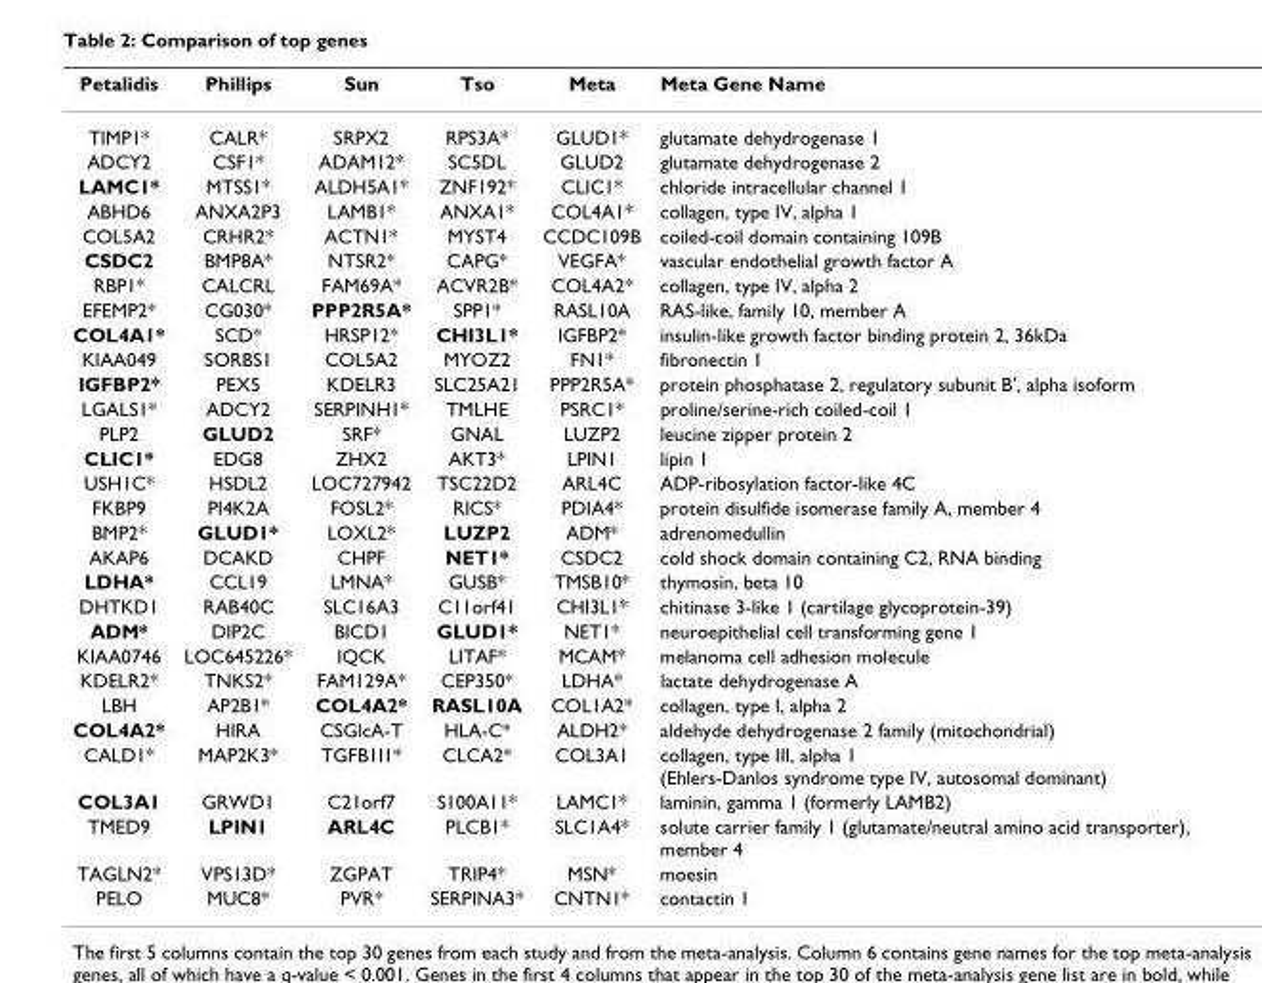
<table><thead><tr><td>Petalidis</td><td>Phillips</td><td>Sun</td><td>Tso</td><td>Meta</td><td>Meta Gene Name</td></tr></thead><tbody><tr><td>TIMP1*</td><td>CALR*</td><td>SRPX2</td><td>RPS3A*</td><td>GLUD1*</td><td>glutamate dehydrogenase 1</td></tr><tr><td>ADCY2</td><td>CSF1*</td><td>ADAM12*</td><td>SC5DL</td><td>GLUD2</td><td>glutamate dehydrogenase 2</td></tr><tr><td>LAMC1*</td><td>MTSS1*</td><td>ALDH5A1*</td><td>ZNF192*</td><td>CLIC1*</td><td>chloride intracellular channel 1</td></tr><tr><td>ABHD6</td><td>ANXA2P3</td><td>LAMB1*</td><td>ANXA1*</td><td>COL4A1*</td><td>collagen, type IV, alpha 1</td></tr><tr><td>COL5A2</td><td>CRHR2*</td><td>ACTN1*</td><td>MYST4</td><td>CCDC109B</td><td>coiled-coil domain containing 109B</td></tr><tr><td>CSDC2</td><td>BMP8A*</td><td>NTSR2*</td><td>CAPG*</td><td>VEGFA*</td><td>vascular endothelial growth factor A</td></tr><tr><td>RBP1*</td><td>CALCRL</td><td>FAM69A*</td><td>ACVR2B*</td><td>COL4A2*</td><td>collagen, type IV, alpha 2</td></tr><tr><td>EFEMP2*</td><td>CG030*</td><td>PPP2R5A*</td><td>SPP1*</td><td>RASL10A</td><td>RAS-like, family 10, member A</td></tr><tr><td>COL4A1*</td><td>SCD*</td><td>HRSP12*</td><td>CHI3L1*</td><td>IGFBP2*</td><td>insulin-like growth factor binding protein 2, 36kDa</td></tr><tr><td>KIAA049</td><td>SORBS1</td><td>COL5A2</td><td>MYOZ2</td><td>FN1*</td><td>fibronectin 1</td></tr><tr><td>IGFBP2*</td><td>PEX5</td><td>KDELR3</td><td>SLC25A21</td><td>PPP2R5A*</td><td>protein phosphatase 2, regulatory subunit B&#x27;, alpha isoform</td></tr><tr><td>LGALS1*</td><td>ADCY2</td><td>SERPINH1*</td><td>TMLHE</td><td>PSRC1*</td><td>proline/serine-rich coiled-coil 1</td></tr><tr><td>PLP2</td><td>GLUD2</td><td>SRF*</td><td>GNAL</td><td>LUZP2</td><td>leucine zipper protein 2</td></tr><tr><td>CLIC1*</td><td>EDG8</td><td>ZHX2</td><td>AKT3*</td><td>LPIN1</td><td>lipin 1</td></tr><tr><td>USH1C*</td><td>HSDL2</td><td>LOC727942</td><td>TSC22D2</td><td>ARL4C</td><td>ADP-ribosylation factor-like 4C</td></tr><tr><td>FKBP9</td><td>PI4K2A</td><td>FOSL2*</td><td>RICS*</td><td>PDIA4*</td><td>protein disulfide isomerase family A, member 4</td></tr><tr><td>BMP2*</td><td>GLUD1*</td><td>LOXL2*</td><td>LUZP2</td><td>ADM*</td><td>adrenomedullin</td></tr><tr><td>AKAP6</td><td>DCAKD</td><td>CHPF</td><td>NET1*</td><td>CSDC2</td><td>cold shock domain containing C2, RNA binding</td></tr><tr><td>LDHA*</td><td>CCL19</td><td>LMNA*</td><td>GUSB*</td><td>TMSB10*</td><td>thymosin, beta 10</td></tr><tr><td>DHTKD1</td><td>RAB40C</td><td>SLC16A3</td><td>C11orf41</td><td>CHI3L1*</td><td>chitinase 3-like 1 (cartilage glycoprotein-39)</td></tr><tr><td>ADM*</td><td>DIP2C</td><td>BICD1</td><td>GLUD1*</td><td>NET1*</td><td>neuroepithelial cell transforming gene 1</td></tr><tr><td>KIAA0746</td><td>LOC645226*</td><td>IQCK</td><td>LITAF*</td><td>MCAM*</td><td>melanoma cell adhesion molecule</td></tr><tr><td>KDELR2*</td><td>TNKS2*</td><td>FAM129A*</td><td>CEP350*</td><td>LDHA*</td><td>lactate dehydrogenase A</td></tr><tr><td>LBH</td><td>AP2B1*</td><td>COL4A2*</td><td>RASL10A</td><td>COL1A2*</td><td>collagen, type I, alpha 2</td></tr><tr><td>COL4A2*</td><td>HIRA</td><td>CSGlcA-T</td><td>HLA-C*</td><td>ALDH2*</td><td>aldehyde dehydrogenase 2 family (mitochondrial)</td></tr><tr><td>CALD1*</td><td>MAP2K3*</td><td>TGFB1I1*</td><td>CLCA2*</td><td>COL3A1</td><td>collagen, type III, alpha 1 (Ehlers-Danlos syndrome type IV, autosomal dominant)</td></tr><tr><td>COL3A1</td><td>GRWD1</td><td>C21orf7</td><td>S100A11*</td><td>LAMC1*</td><td>laminin, gamma 1 (formerly LAMB2)</td></tr><tr><td>TMED9</td><td>LPIN1</td><td>ARL4C</td><td>PLCB1*</td><td>SLC1A4*</td><td>solute carrier family 1 (glutamate/neutral amino acid transporter), member 4</td></tr><tr><td>TAGLN2*</td><td>VPS13D*</td><td>ZGPAT</td><td>TRIP4*</td><td>MSN*</td><td>moesin</td></tr><tr><td>PELO</td><td>MUC8*</td><td>PVR*</td><td>SERPINA3*</td><td>CNTN1*</td><td>contactin 1</td></tr></tbody></table>